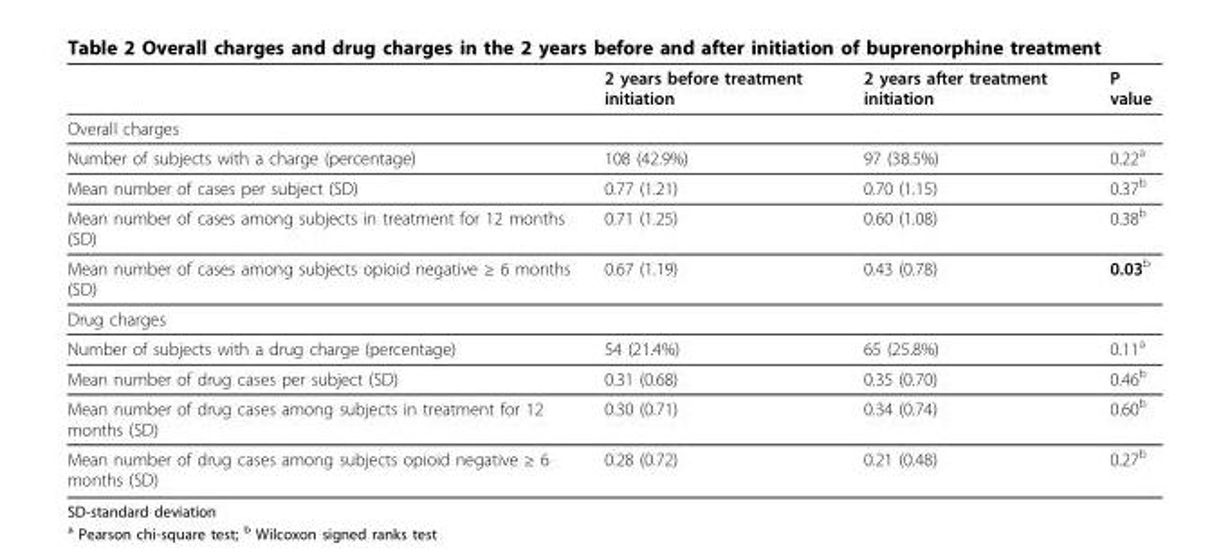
<table><thead><tr><td></td><td>2 years before treatment initiation</td><td>2 years after treatment initiation</td><td>P value</td></tr></thead><tbody><tr><td colspan="4">Overall charges</td></tr><tr><td>Number of subjects with a charge (percentage)</td><td>108 (42.9%)</td><td>97 (38.5%)</td><td>0.22<sup>a</sup></td></tr><tr><td>Mean number of cases per subject (SD)</td><td>0.77 (1.21)</td><td>0.70 (1.15)</td><td>0.37<sup>b</sup></td></tr><tr><td>Mean number of cases among subjects in treatment for 12 months (SD)</td><td>0.71 (1.25)</td><td>0.60 (1.08)</td><td>0.38<sup>b</sup></td></tr><tr><td>Mean number of cases among subjects opioid negative ≥ 6 months (SD)</td><td>0.67 (1.19)</td><td>0.43 (0.78)</td><td>0.03<sup>b</sup></td></tr><tr><td colspan="4">Drug charges</td></tr><tr><td>Number of subjects with a drug charge (percentage)</td><td>54 (21.4%)</td><td>65 (25.8%)</td><td>0.11<sup>a</sup></td></tr><tr><td>Mean number of drug cases per subject (SD)</td><td>0.31 (0.68)</td><td>0.35 (0.70)</td><td>0.46<sup>b</sup></td></tr><tr><td>Mean number of drug cases among subjects in treatment for 12 months (SD)</td><td>0.30 (0.71)</td><td>0.34 (0.74)</td><td>0.60<sup>b</sup></td></tr><tr><td>Mean number of drug cases among subjects opioid negative ≥ 6 months (SD)</td><td>0.28 (0.72)</td><td>0.21 (0.48)</td><td>0.27<sup>b</sup></td></tr></tbody></table>